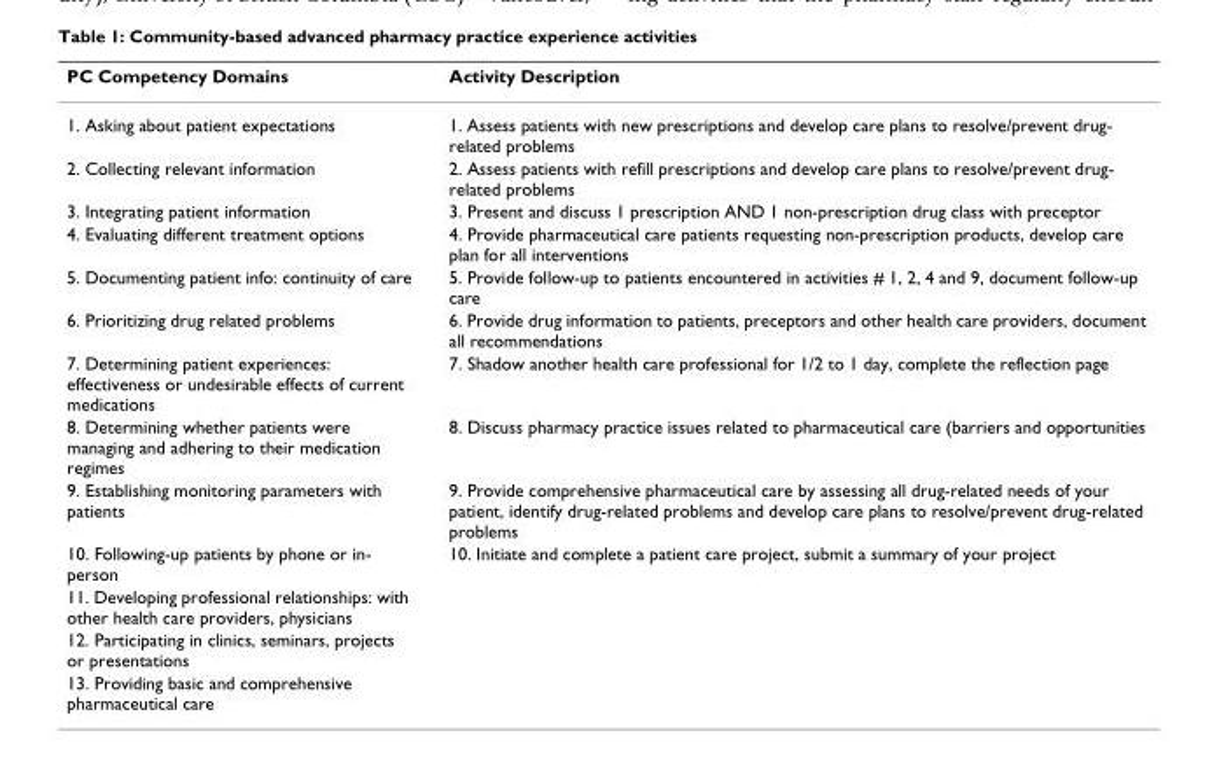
<table><thead><tr><td>PC Competency Domains</td><td>Activity Description</td></tr></thead><tbody><tr><td>1. Asking about patient expectations</td><td>1. Assess patients with new prescriptions and develop care plans to resolve/prevent drug- related problems</td></tr><tr><td>2. Collecting relevant information</td><td>2. Assess patients with refill prescriptions and develop care plans to resolve/prevent drug- related problems</td></tr><tr><td>3. Integrating patient information</td><td>3. Present and discuss 1 prescription AND 1 non-prescription drug class with preceptor</td></tr><tr><td>4. Evaluating different treatment options</td><td>4. Provide pharmaceutical care patients requesting non-prescription products, develop care plan for all interventions</td></tr><tr><td>5. Documenting patient info: continuity of care</td><td>5. Provide follow-up to patients encountered in activities # 1, 2, 4 and 9, document follow-up care</td></tr><tr><td>6. Prioritizing drug related problems</td><td>6. Provide drug information to patients, preceptors and other health care providers, document all recommendations</td></tr><tr><td>7. Determining patient experiences: effectiveness or undesirable effects of current medications</td><td>7. Shadow another health care professional for 1/2 to 1 day, complete the reflection page</td></tr><tr><td>8. Determining whether patients were managing and adhering to their medication regimes</td><td>8. Discuss pharmacy practice issues related to pharmaceutical care (barriers and opportunities</td></tr><tr><td>9. Establishing monitoring parameters with patients</td><td>9. Provide comprehensive pharmaceutical care by assessing all drug-related needs of your patient, identify drug-related problems and develop care plans to resolve/prevent drug-related problems</td></tr><tr><td>10. Following-up patients by phone or in- person</td><td>10. Initiate and complete a patient care project, submit a summary of your project</td></tr><tr><td colspan="2">11. Developing professional relationships: with other health care providers, physicians</td></tr><tr><td colspan="2">12. Participating in clinics, seminars, projects or presentations</td></tr><tr><td>13. Providing basic and comprehensive pharmaceutical care</td><td></td></tr></tbody></table>